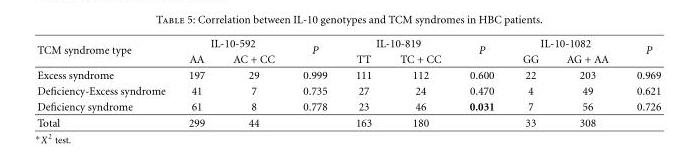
<table><thead><tr><td rowspan="2">TCM syndrome type</td><td colspan="2">IL-10-592</td><td rowspan="2">P</td><td colspan="2">IL-10-819</td><td rowspan="2">P</td><td colspan="2">IL-10-1082</td><td rowspan="2">P</td></tr><tr><td>AA</td><td>AC + CC</td><td>TT</td><td>TC + CC</td><td>GG</td><td>AG + AA</td></tr></thead><tbody><tr><td>Excess syndrome</td><td>197</td><td>29</td><td>0.999</td><td>111</td><td>112</td><td>0.600</td><td>22</td><td>203</td><td>0.969</td></tr><tr><td>Deficiency-Excess syndrome</td><td>41</td><td>7</td><td>0.735</td><td>27</td><td>24</td><td>0.470</td><td>4</td><td>49</td><td>0.621</td></tr><tr><td>Deficiency syndrome</td><td>61</td><td>8</td><td>0.778</td><td>23</td><td>46</td><td>0.031</td><td>7</td><td>56</td><td>0.726</td></tr><tr><td>Total</td><td>299</td><td>44</td><td></td><td>163</td><td>180</td><td></td><td>33</td><td>308</td><td></td></tr></tbody></table>